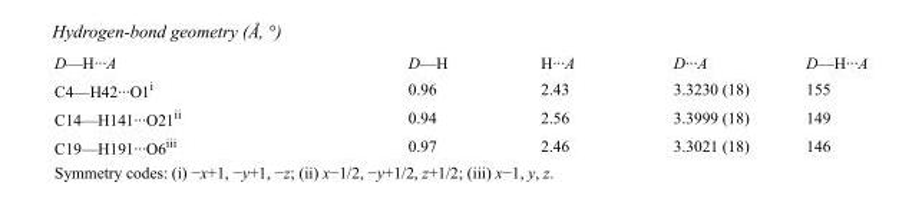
<table><tbody><tr><td>D—H···A</td><td>D—H</td><td>H···A</td><td>D···A</td><td>D—H···A</td></tr><tr><td>C4—H42···O1<sup>i</sup></td><td>0.96</td><td>2.43</td><td>3.3230 (18)</td><td>155</td></tr><tr><td>C14—H141···O21<sup>ii</sup></td><td>0.94</td><td>2.56</td><td>3.3999 (18)</td><td>149</td></tr><tr><td>C19—H191···O6<sup>iii</sup></td><td>0.97</td><td>2.46</td><td>3.3021 (18)</td><td>146</td></tr></tbody></table>